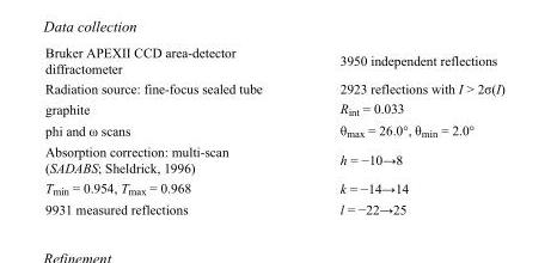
<table><tbody><tr><td>Bruker APEXII CCD area-detector diffractometer</td><td>3950 independent reflections</td></tr><tr><td>Radiation source: fine-focus sealed tube</td><td>2923 reflections with I &gt; 2σ(I)</td></tr><tr><td>graphite</td><td>R<sub>int</sub> = 0.033</td></tr><tr><td>phi and ω scans</td><td>θ<sub>max</sub> = 26.0°, θ<sub>min</sub> = 2.0°</td></tr><tr><td>Absorption correction: multi-scan (SADABS; Sheldrick, 1996)</td><td>h = −10→8</td></tr><tr><td>T<sub>min</sub> = 0.954, T<sub>max</sub> = 0.968</td><td>k = −14→14</td></tr><tr><td>9931 measured reflections</td><td>l = −22→25</td></tr></tbody></table>